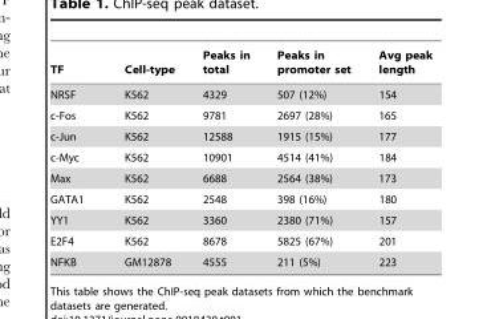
<table><thead><tr><td>TF</td><td>Cell-type</td><td>Peaks in total</td><td>Peaks in promoter set</td><td>Avg peak length</td></tr></thead><tbody><tr><td>NRSF</td><td>K562</td><td>4329</td><td>507 (12%)</td><td>154</td></tr><tr><td>c-Fos</td><td>K562</td><td>9781</td><td>2697 (28%)</td><td>165</td></tr><tr><td>c-Jun</td><td>K562</td><td>12588</td><td>1915 (15%)</td><td>177</td></tr><tr><td>c-Myc</td><td>K562</td><td>10901</td><td>4514 (41%)</td><td>184</td></tr><tr><td>Max</td><td>K562</td><td>6688</td><td>2564 (38%)</td><td>173</td></tr><tr><td>GATA1</td><td>K562</td><td>2548</td><td>398 (16%)</td><td>180</td></tr><tr><td>YY1</td><td>K562</td><td>3360</td><td>2380 (71%)</td><td>157</td></tr><tr><td>E2F4</td><td>K562</td><td>8678</td><td>5825 (67%)</td><td>201</td></tr><tr><td>NFKB</td><td>GM12878</td><td>4555</td><td>211 (5%)</td><td>223</td></tr></tbody></table>